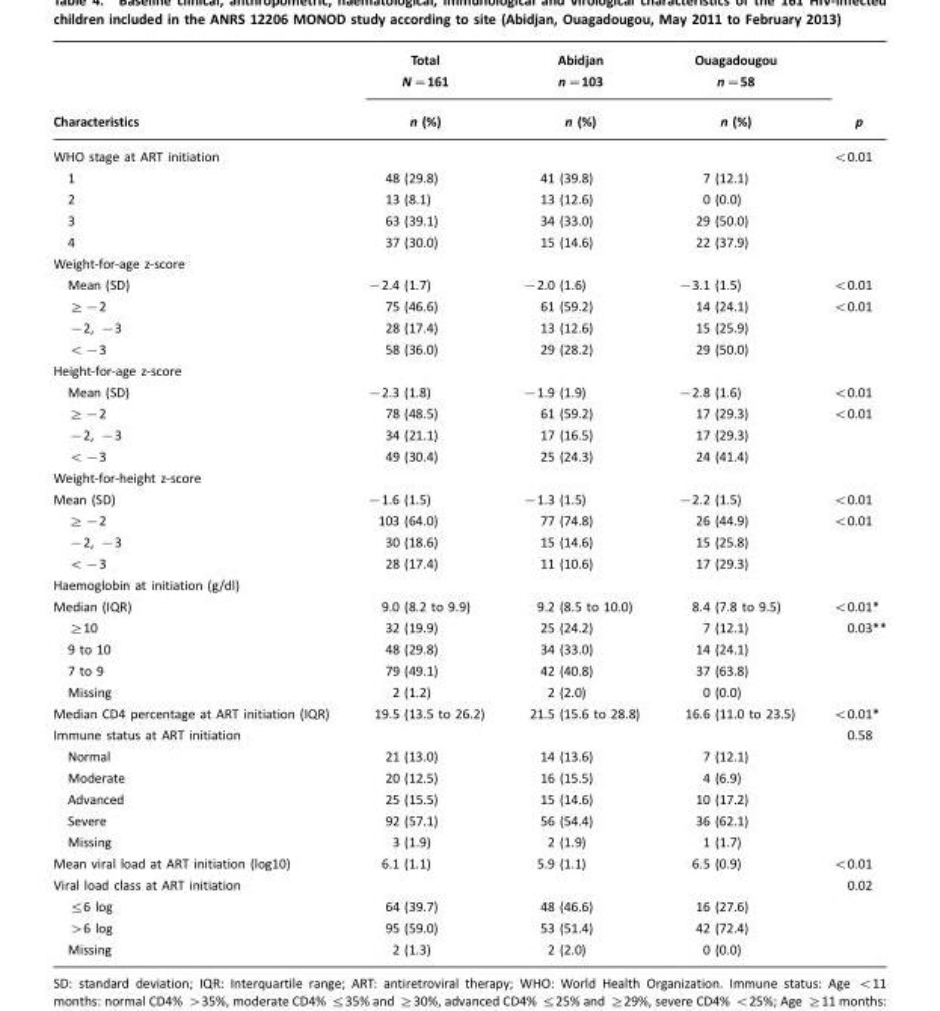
<table><thead><tr><td rowspan="2">Characteristics</td><td rowspan="2">Total N=161 n (%)</td><td rowspan="2">Abidjan n=103 n (%)</td><td rowspan="2">Ouagadougou n=58 n (%)</td><td rowspan="2">p</td></tr><tr></tr></thead><tbody><tr><td>WHO stage at ART initiation</td><td></td><td></td><td></td><td>&lt;0.01</td></tr><tr><td>1</td><td>48 (29.8)</td><td>41 (39.8)</td><td>7 (12.1)</td><td></td></tr><tr><td>2</td><td>13 (8.1)</td><td>13 (12.6)</td><td>0 (0.0)</td><td></td></tr><tr><td>3</td><td>63 (39.1)</td><td>34 (33.0)</td><td>29 (50.0)</td><td></td></tr><tr><td>4</td><td>37 (30.0)</td><td>15 (14.6)</td><td>22 (37.9)</td><td></td></tr><tr><td colspan="5">Weight-for-age z-score</td></tr><tr><td>Mean (SD)</td><td>−2.4 (1.7)</td><td>−2.0 (1.6)</td><td>−3.1 (1.5)</td><td>&lt;0.01</td></tr><tr><td>≥−2</td><td>75 (46.6)</td><td>61 (59.2)</td><td>14 (24.1)</td><td>&lt;0.01</td></tr><tr><td>−2, −3</td><td>28 (17.4)</td><td>13 (12.6)</td><td>15 (25.9)</td><td></td></tr><tr><td>&lt;−3</td><td>58 (36.0)</td><td>29 (28.2)</td><td>29 (50.0)</td><td></td></tr><tr><td colspan="5">Height-for-age z-score</td></tr><tr><td>Mean (SD)</td><td>−2.3 (1.8)</td><td>−1.9 (1.9)</td><td>−2.8 (1.6)</td><td>&lt;0.01</td></tr><tr><td>≥−2</td><td>78 (48.5)</td><td>61 (59.2)</td><td>17 (29.3)</td><td>&lt;0.01</td></tr><tr><td>−2, −3</td><td>34 (21.1)</td><td>17 (16.5)</td><td>17 (29.3)</td><td></td></tr><tr><td>&lt;−3</td><td>49 (30.4)</td><td>25 (24.3)</td><td>24 (41.4)</td><td></td></tr><tr><td colspan="5">Weight-for-height z-score</td></tr><tr><td>Mean (SD)</td><td>−1.6 (1.5)</td><td>−1.3 (1.5)</td><td>−2.2 (1.5)</td><td>&lt;0.01</td></tr><tr><td>≥−2</td><td>103 (64.0)</td><td>77 (74.8)</td><td>26 (44.9)</td><td>&lt;0.01</td></tr><tr><td>−2, −3</td><td>30 (18.6)</td><td>15 (14.6)</td><td>15 (25.8)</td><td></td></tr><tr><td>&lt;−3</td><td>28 (17.4)</td><td>11 (10.6)</td><td>17 (29.3)</td><td></td></tr><tr><td colspan="5">Haemoglobin at initiation (g/dl)</td></tr><tr><td>Median (IQR)</td><td>9.0 (8.2 to 9.9)</td><td>9.2 (8.5 to 10.0)</td><td>8.4 (7.8 to 9.5)</td><td>&lt;0.01*</td></tr><tr><td>≥10</td><td>32 (19.9)</td><td>25 (24.2)</td><td>7 (12.1)</td><td>0.03**</td></tr><tr><td>9 to 10</td><td>48 (29.8)</td><td>34 (33.0)</td><td>14 (24.1)</td><td></td></tr><tr><td>7 to 9</td><td>79 (49.1)</td><td>42 (40.8)</td><td>37 (63.8)</td><td></td></tr><tr><td>Missing</td><td>2 (1.2)</td><td>2 (2.0)</td><td>0 (0.0)</td><td></td></tr><tr><td>Median CD4 percentage at ART initiation (IQR)</td><td>19.5 (13.5 to 26.2)</td><td>21.5 (15.6 to 28.8)</td><td>16.6 (11.0 to 23.5)</td><td>&lt;0.01*</td></tr><tr><td>Immune status at ART initiation</td><td></td><td></td><td></td><td>0.58</td></tr><tr><td>Normal</td><td>21 (13.0)</td><td>14 (13.6)</td><td>7 (12.1)</td><td></td></tr><tr><td>Moderate</td><td>20 (12.5)</td><td>16 (15.5)</td><td>4 (6.9)</td><td></td></tr><tr><td>Advanced</td><td>25 (15.5)</td><td>15 (14.6)</td><td>10 (17.2)</td><td></td></tr><tr><td>Severe</td><td>92 (57.1)</td><td>56 (54.4)</td><td>36 (62.1)</td><td></td></tr><tr><td>Missing</td><td>3 (1.9)</td><td>2 (1.9)</td><td>1 (1.7)</td><td></td></tr><tr><td>Mean viral load at ART initiation (log10)</td><td>6.1 (1.1)</td><td>5.9 (1.1)</td><td>6.5 (0.9)</td><td>&lt;0.01</td></tr><tr><td>Viral load class at ART initiation</td><td></td><td></td><td></td><td>0.02</td></tr><tr><td>≤6 log</td><td>64 (39.7)</td><td>48 (46.6)</td><td>16 (27.6)</td><td></td></tr><tr><td>&gt;6 log</td><td>95 (59.0)</td><td>53 (51.4)</td><td>42 (72.4)</td><td></td></tr><tr><td>Missing</td><td>2 (1.3)</td><td>2 (2.0)</td><td>0 (0.0)</td><td></td></tr></tbody></table>